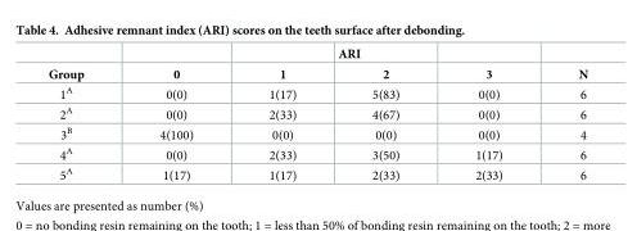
<table><thead><tr><td rowspan="2">Group</td><td rowspan="2">0</td><td rowspan="2">1</td><td rowspan="2">ARI 2</td><td rowspan="2">3</td><td rowspan="2">N</td></tr><tr></tr></thead><tbody><tr><td>1<sup>A</sup></td><td>0(0)</td><td>1(17)</td><td>5(83)</td><td>0(0)</td><td>6</td></tr><tr><td>2<sup>A</sup></td><td>0(0)</td><td>2(33)</td><td>4(67)</td><td>0(0)</td><td>6</td></tr><tr><td>3<sup>B</sup></td><td>4(100)</td><td>0(0)</td><td>0(0)</td><td>0(0)</td><td>4</td></tr><tr><td>4<sup>A</sup></td><td>0(0)</td><td>2(33)</td><td>3(50)</td><td>1(17)</td><td>6</td></tr><tr><td>5<sup>A</sup></td><td>1(17)</td><td>1(17)</td><td>2(33)</td><td>2(33)</td><td>6</td></tr></tbody></table>